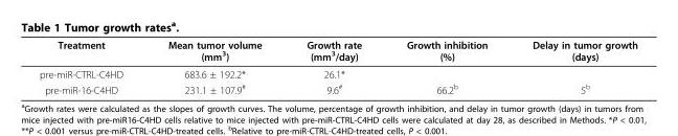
<table><thead><tr><td>Treatment</td><td>Mean tumor volume (mm<sup>3</sup>)</td><td>Growth rate (mm<sup>3</sup>/day)</td><td>Growth inhibition (%)</td><td>Delay in tumor growth (days)</td></tr></thead><tbody><tr><td>pre-miR-CTRL-C4HD</td><td>683.6 ± 192.2*</td><td>26.1*</td><td></td><td></td></tr><tr><td>pre-miR-16-C4HD</td><td>231.1 ± 107.9<sup>#</sup></td><td>9.6<sup>#</sup></td><td>66.2<sup>b</sup></td><td>5<sup>b</sup></td></tr></tbody></table>